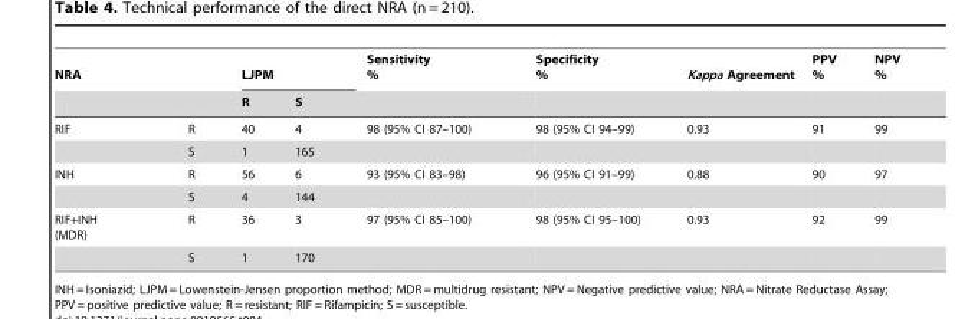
<table><thead><tr><td colspan="2">NRA</td><td colspan="2">LJPM</td><td rowspan="2">Sensitivity %</td><td rowspan="2">Specificity %</td><td rowspan="2">Kappa Agreement</td><td rowspan="2">PPV %</td><td rowspan="2">NPV %</td></tr><tr><td></td><td></td><td>R</td><td>S</td></tr></thead><tbody><tr><td rowspan="2">RIF</td><td>R</td><td>40</td><td>4</td><td>98 (95% CI 87–100)</td><td>98 (95% CI 94–99)</td><td>0.93</td><td>91</td><td>99</td></tr><tr><td>S</td><td>1</td><td>165</td><td></td><td></td><td></td><td></td><td></td></tr><tr><td rowspan="2">INH</td><td>R</td><td>56</td><td>6</td><td>93 (95% CI 83–98)</td><td>96 (95% CI 91–99)</td><td>0.88</td><td>90</td><td>97</td></tr><tr><td>S</td><td>4</td><td>144</td><td></td><td></td><td></td><td></td><td></td></tr><tr><td rowspan="2">RIF+INH (MDR)</td><td>R</td><td>36</td><td>3</td><td>97 (95% CI 85–100)</td><td>98 (95% CI 95–100)</td><td>0.93</td><td>92</td><td>99</td></tr><tr><td>S</td><td>1</td><td>170</td><td></td><td></td><td></td><td></td><td></td></tr></tbody></table>